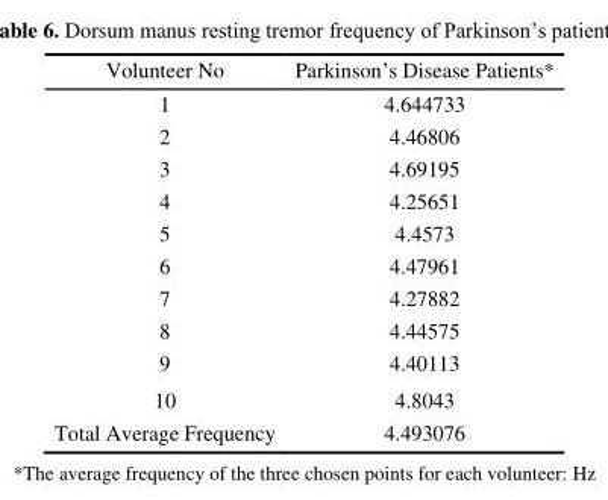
<table><thead><tr><td>Volunteer No</td><td>Parkinson’s Disease Patients*</td></tr></thead><tbody><tr><td>1</td><td>4.644733</td></tr><tr><td>2</td><td>4.46806</td></tr><tr><td>3</td><td>4.69195</td></tr><tr><td>4</td><td>4.25651</td></tr><tr><td>5</td><td>4.4573</td></tr><tr><td>6</td><td>4.47961</td></tr><tr><td>7</td><td>4.27882</td></tr><tr><td>8</td><td>4.44575</td></tr><tr><td>9</td><td>4.40113</td></tr><tr><td>10</td><td>4.8043</td></tr><tr><td>Total Average Frequency</td><td>4.493076</td></tr></tbody></table>